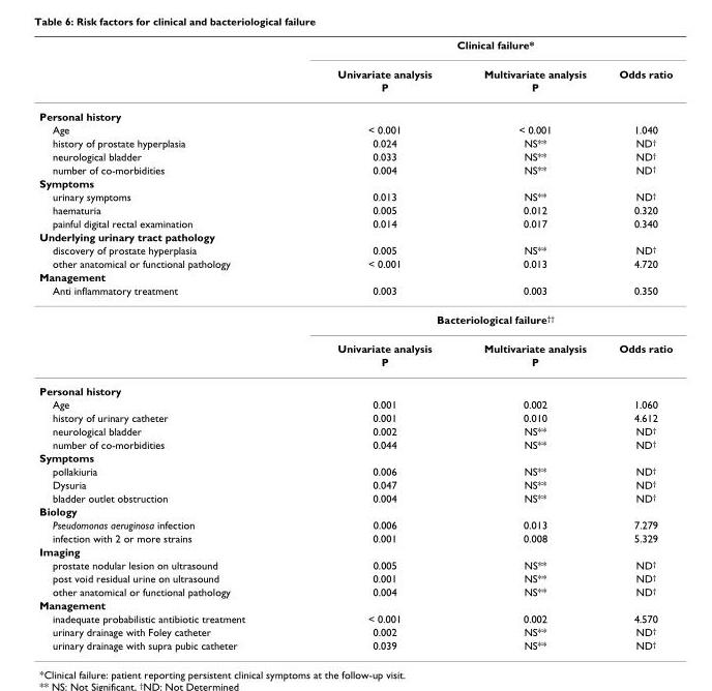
<table><thead><tr><td rowspan="3"></td><td colspan="3">Clinical failure*</td></tr><tr><td rowspan="2">Univariate analysis P</td><td rowspan="2">Multivariate analysis P</td><td rowspan="2">Odds ratio</td></tr><tr></tr></thead><tbody><tr><td colspan="4">Personal history</td></tr><tr><td>Age</td><td>&lt; 0.001</td><td>&lt; 0.001</td><td>1.040</td></tr><tr><td>history of prostate hyperplasia</td><td>0.024</td><td>NS**</td><td>ND<sup>†</sup></td></tr><tr><td>neurological bladder</td><td>0.033</td><td>NS**</td><td>ND<sup>†</sup></td></tr><tr><td>number of co-morbidities</td><td>0.004</td><td>NS**</td><td>ND<sup>†</sup></td></tr><tr><td colspan="4">Symptoms</td></tr><tr><td>urinary symptoms</td><td>0.013</td><td>NS**</td><td>ND<sup>†</sup></td></tr><tr><td>haematuria</td><td>0.005</td><td>0.012</td><td>0.320</td></tr><tr><td>painful digital rectal examination</td><td>0.014</td><td>0.017</td><td>0.340</td></tr><tr><td colspan="4">Underlying urinary tract pathology</td></tr><tr><td>discovery of prostate hyperplasia</td><td>0.005</td><td>NS**</td><td>ND<sup>†</sup></td></tr><tr><td>other anatomical or functional pathology</td><td>&lt; 0.001</td><td>0.013</td><td>4.720</td></tr><tr><td colspan="4">Management</td></tr><tr><td rowspan="4">Anti inflammatory treatment</td><td>0.003</td><td>0.003</td><td>0.350</td></tr><tr><td colspan="3">Bacteriological failure<sup>††</sup></td></tr><tr><td>Univariate analysis</td><td>Multivariate analysis</td><td>Odds ratio</td></tr><tr><td>P</td><td>P</td><td></td></tr><tr><td colspan="4">Personal history</td></tr><tr><td>Age</td><td>0.001</td><td>0.002</td><td>1.060</td></tr><tr><td>history of urinary catheter</td><td>0.001</td><td>0.010</td><td>4.612</td></tr><tr><td>neurological bladder</td><td>0.002</td><td>NS**</td><td>ND<sup>†</sup></td></tr><tr><td>number of co-morbidities</td><td>0.044</td><td>NS**</td><td>ND<sup>†</sup></td></tr><tr><td colspan="4">Symptoms</td></tr><tr><td>pollakiuria</td><td>0.006</td><td>NS**</td><td>ND<sup>†</sup></td></tr><tr><td>Dysuria</td><td>0.047</td><td>NS**</td><td>ND<sup>†</sup></td></tr><tr><td>bladder outlet obstruction</td><td>0.004</td><td>NS**</td><td>ND<sup>†</sup></td></tr><tr><td colspan="4">Biology</td></tr><tr><td>Pseudomonas aeruginosa infection</td><td>0.006</td><td>0.013</td><td>7.279</td></tr><tr><td>infection with 2 or more strains</td><td>0.001</td><td>0.008</td><td>5.329</td></tr><tr><td colspan="4">Imaging</td></tr><tr><td>prostate nodular lesion on ultrasound</td><td>0.005</td><td>NS**</td><td>ND<sup>†</sup></td></tr><tr><td>post void residual urine on ultrasound</td><td>0.001</td><td>NS**</td><td>ND<sup>†</sup></td></tr><tr><td>other anatomical or functional pathology</td><td>0.004</td><td>NS**</td><td>ND<sup>†</sup></td></tr><tr><td colspan="4">Management</td></tr><tr><td>inadequate probabilistic antibiotic treatment</td><td>&lt; 0.001</td><td>0.002</td><td>4.570</td></tr><tr><td>urinary drainage with Foley catheter</td><td>0.002</td><td>NS**</td><td>ND<sup>†</sup></td></tr><tr><td>urinary drainage with supra pubic catheter</td><td>0.039</td><td>NS**</td><td>ND<sup>†</sup></td></tr></tbody></table>